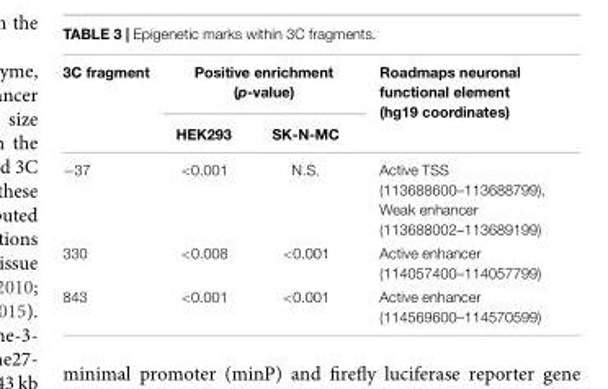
<table><thead><tr><td rowspan="2">3C fragment</td><td colspan="2">Positive enrichment (p-value)</td><td rowspan="2">Roadmaps neuronal functional element (hg19 coordinates)</td></tr><tr><td>HEK293</td><td>SK-N-MC</td></tr></thead><tbody><tr><td>−37</td><td>&lt;0.001</td><td>N.S.</td><td>Active TSS (113688600–113688799), Weak enhancer (113688002–113689199)</td></tr><tr><td>330</td><td>&lt;0.008</td><td>&lt;0.001</td><td>Active enhancer (114057400–114057799)</td></tr><tr><td>843</td><td>&lt;0.001</td><td>&lt;0.001</td><td>Active enhancer (114569600–114570599)</td></tr></tbody></table>